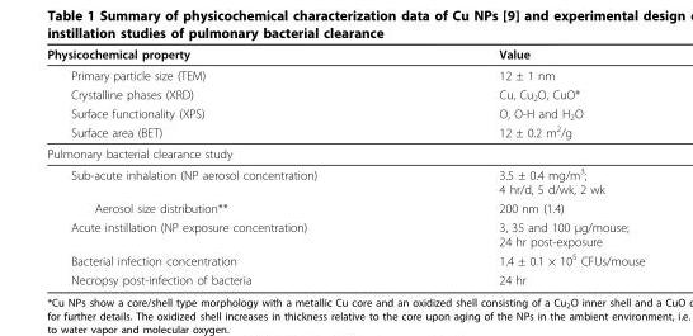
<table><thead><tr><td>Physicochemical property</td><td>Value</td></tr></thead><tbody><tr><td>Primary particle size (TEM)</td><td>12 ± 1 nm</td></tr><tr><td>Crystalline phases (XRD)</td><td>Cu, Cu<sub>2</sub>O, CuO*</td></tr><tr><td>Surface functionality (XPS)</td><td>O, O-H and H<sub>2</sub>O</td></tr><tr><td>Surface area (BET)</td><td>12 ± 0.2 m<sup>2</sup>/g</td></tr><tr><td colspan="2">Pulmonary bacterial clearance study</td></tr><tr><td>Sub-acute inhalation (NP aerosol concentration)</td><td>3.5 ± 0.4 mg/m<sup>3</sup>; 4 hr/d, 5 d/wk, 2 wk</td></tr><tr><td>Aerosol size distribution**</td><td>200 nm (1.4)</td></tr><tr><td>Acute instillation (NP exposure concentration)</td><td>3, 35 and 100 μg/mouse; 24 hr post-exposure</td></tr><tr><td>Bacterial infection concentration</td><td>1.4 ± 0.1 × 10<sup>5</sup> CFUs/mouse</td></tr><tr><td>Necropsy post-infection of bacteria</td><td>24 hr</td></tr></tbody></table>